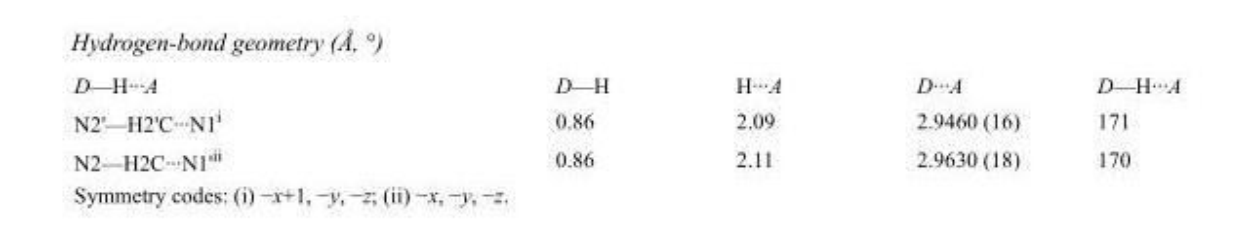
<table><tbody><tr><td>D—H···A</td><td>D—H</td><td>H···A</td><td>D···A</td><td>D—H···A</td></tr><tr><td>N2&#x27;—H2&#x27;C···N1<sup>i</sup></td><td>0.86</td><td>2.09</td><td>2.9460 (16)</td><td>171</td></tr><tr><td>N2—H2C···N1&#x27;<sup>ii</sup></td><td>0.86</td><td>2.11</td><td>2.9630 (18)</td><td>170</td></tr></tbody></table>